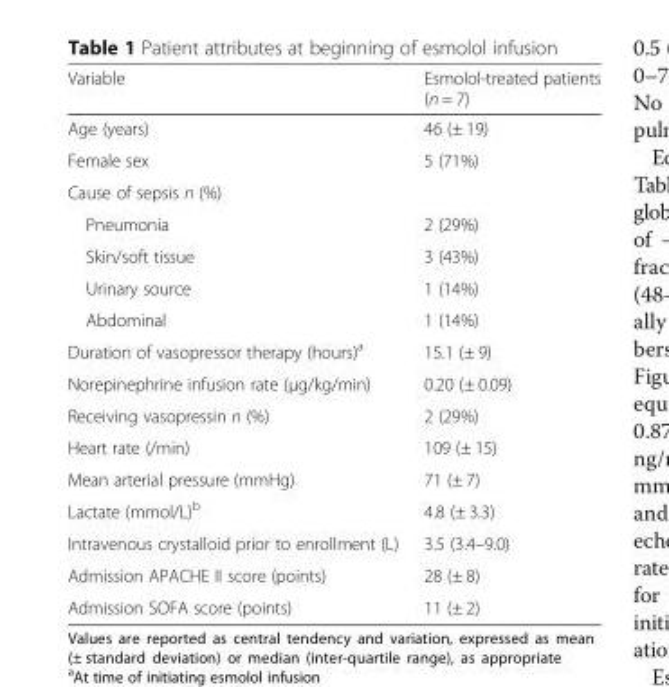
<table><thead><tr><td>Variable</td><td>Esmolol-treated patients (n = 7)</td></tr></thead><tbody><tr><td>Age (years)</td><td>46 (± 19)</td></tr><tr><td>Female sex</td><td>5 (71%)</td></tr><tr><td colspan="2">Cause of sepsis n (%)</td></tr><tr><td>Pneumonia</td><td>2 (29%)</td></tr><tr><td>Skin/soft tissue</td><td>3 (43%)</td></tr><tr><td>Urinary source</td><td>1 (14%)</td></tr><tr><td>Abdominal</td><td>1 (14%)</td></tr><tr><td>Duration of vasopressor therapy (hours)<sup>a</sup></td><td>15.1 (± 9)</td></tr><tr><td>Norepinephrine infusion rate (μg/kg/min)</td><td>0.20 (± 0.09)</td></tr><tr><td>Receiving vasopressin n (%)</td><td>2 (29%)</td></tr><tr><td>Heart rate (/min)</td><td>109 (± 15)</td></tr><tr><td>Mean arterial pressure (mmHg)</td><td>71 (± 7)</td></tr><tr><td>Lactate (mmol/L)<sup>b</sup></td><td>4.8 (± 3.3)</td></tr><tr><td>Intravenous crystalloid prior to enrollment (L)</td><td>3.5 (3.4–9.0)</td></tr><tr><td>Admission APACHE II score (points)</td><td>28 (± 8)</td></tr><tr><td>Admission SOFA score (points)</td><td>11 (± 2)</td></tr></tbody></table>